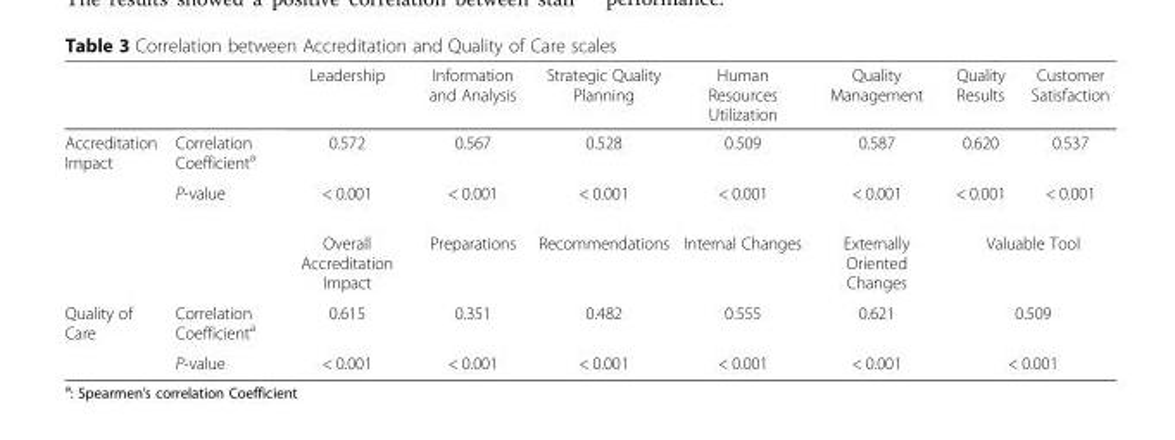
<table><thead><tr><td></td><td></td><td>Leadership</td><td>Information and Analysis</td><td>Strategic Quality Planning</td><td>Human Resources Utilization</td><td>Quality Management</td><td>Quality Results</td><td>Customer Satisfaction</td></tr></thead><tbody><tr><td rowspan="3">Accreditation Impact</td><td>Correlation Coefficient<sup>a</sup></td><td>0.572</td><td>0.567</td><td>0.528</td><td>0.509</td><td>0.587</td><td>0.620</td><td>0.537</td></tr><tr><td>P-value</td><td>&lt; 0.001</td><td>&lt; 0.001</td><td>&lt; 0.001</td><td>&lt; 0.001</td><td>&lt; 0.001</td><td>&lt; 0.001</td><td>&lt; 0.001</td></tr><tr><td></td><td>Overall Accreditation Impact</td><td>Preparations</td><td>Recommendations</td><td>Internal Changes</td><td>Externally Oriented Changes</td><td colspan="2">Valuable Tool</td></tr><tr><td rowspan="2">Quality of Care</td><td>Correlation Coefficient<sup>a</sup></td><td>0.615</td><td>0.351</td><td>0.482</td><td>0.555</td><td>0.621</td><td colspan="2">0.509</td></tr><tr><td>P-value</td><td>&lt; 0.001</td><td>&lt; 0.001</td><td>&lt; 0.001</td><td>&lt; 0.001</td><td>&lt; 0.001</td><td colspan="2">&lt; 0.001</td></tr></tbody></table>